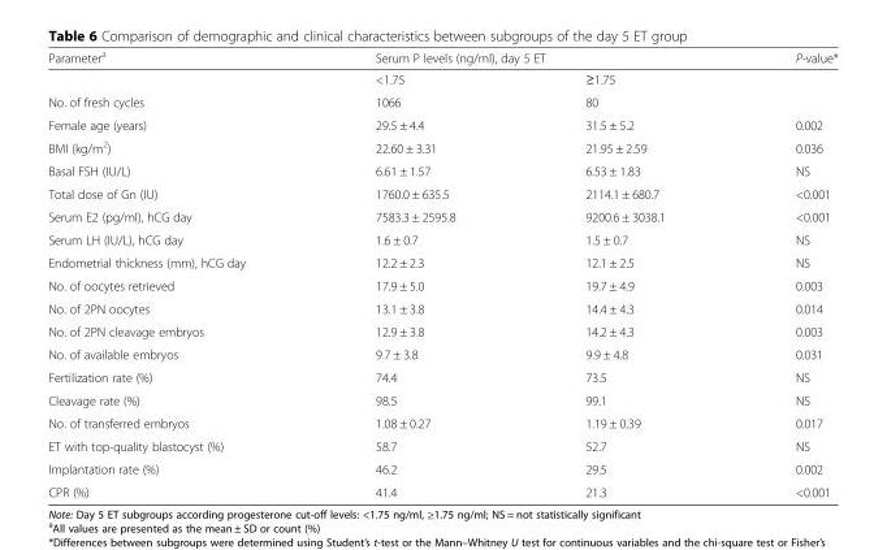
<table><thead><tr><td rowspan="2">Parameter<sup>a</sup></td><td colspan="2">Serum P levels (ng/ml), day 5 ET</td><td rowspan="2">P-value*</td></tr><tr><td>&lt;1.75</td><td>≥1.75</td></tr></thead><tbody><tr><td>No. of fresh cycles</td><td>1066</td><td>80</td><td></td></tr><tr><td>Female age (years)</td><td>29.5 ± 4.4</td><td>31.5 ± 5.2</td><td>0.002</td></tr><tr><td>BMI (kg/m<sup>2</sup>)</td><td>22.60 ± 3.31</td><td>21.95 ± 2.59</td><td>0.036</td></tr><tr><td>Basal FSH (IU/L)</td><td>6.61 ± 1.57</td><td>6.53 ± 1.83</td><td>NS</td></tr><tr><td>Total dose of Gn (IU)</td><td>1760.0 ± 635.5</td><td>2114.1 ± 680.7</td><td>&lt;0.001</td></tr><tr><td>Serum E2 (pg/ml), hCG day</td><td>7583.3 ± 2595.8</td><td>9200.6 ± 3038.1</td><td>&lt;0.001</td></tr><tr><td>Serum LH (IU/L), hCG day</td><td>1.6 ± 0.7</td><td>1.5 ± 0.7</td><td>NS</td></tr><tr><td>Endometrial thickness (mm), hCG day</td><td>12.2 ± 2.3</td><td>12.1 ± 2.5</td><td>NS</td></tr><tr><td>No. of oocytes retrieved</td><td>17.9 ± 5.0</td><td>19.7 ± 4.9</td><td>0.003</td></tr><tr><td>No. of 2PN oocytes</td><td>13.1 ± 3.8</td><td>14.4 ± 4.3</td><td>0.014</td></tr><tr><td>No. of 2PN cleavage embryos</td><td>12.9 ± 3.8</td><td>14.2 ± 4.3</td><td>0.003</td></tr><tr><td>No. of available embryos</td><td>9.7 ± 3.8</td><td>9.9 ± 4.8</td><td>0.031</td></tr><tr><td>Fertilization rate (%)</td><td>74.4</td><td>73.5</td><td>NS</td></tr><tr><td>Cleavage rate (%)</td><td>98.5</td><td>99.1</td><td>NS</td></tr><tr><td>No. of transferred embryos</td><td>1.08 ± 0.27</td><td>1.19 ± 0.39</td><td>0.017</td></tr><tr><td>ET with top-quality blastocyst (%)</td><td>58.7</td><td>52.7</td><td>NS</td></tr><tr><td>Implantation rate (%)</td><td>46.2</td><td>29.5</td><td>0.002</td></tr><tr><td>CPR (%)</td><td>41.4</td><td>21.3</td><td>&lt;0.001</td></tr></tbody></table>